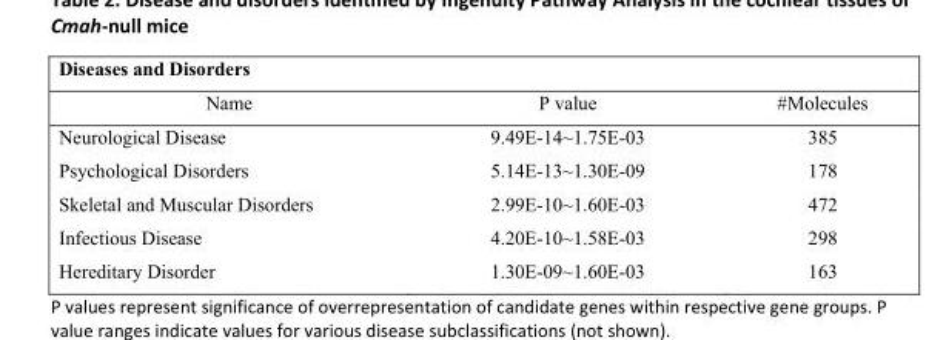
<table><thead><tr><td colspan="3">Diseases and Disorders</td></tr><tr><td>Name</td><td>P value</td><td>#Molecules</td></tr></thead><tbody><tr><td>Neurological Disease</td><td>9.49E-14~1.75E-03</td><td>385</td></tr><tr><td>Psychological Disorders</td><td>5.14E-13~1.30E-09</td><td>178</td></tr><tr><td>Skeletal and Muscular Disorders</td><td>2.99E-10~1.60E-03</td><td>472</td></tr><tr><td>Infectious Disease</td><td>4.20E-10~1.58E-03</td><td>298</td></tr><tr><td>Hereditary Disorder</td><td>1.30E-09~1.60E-03</td><td>163</td></tr></tbody></table>